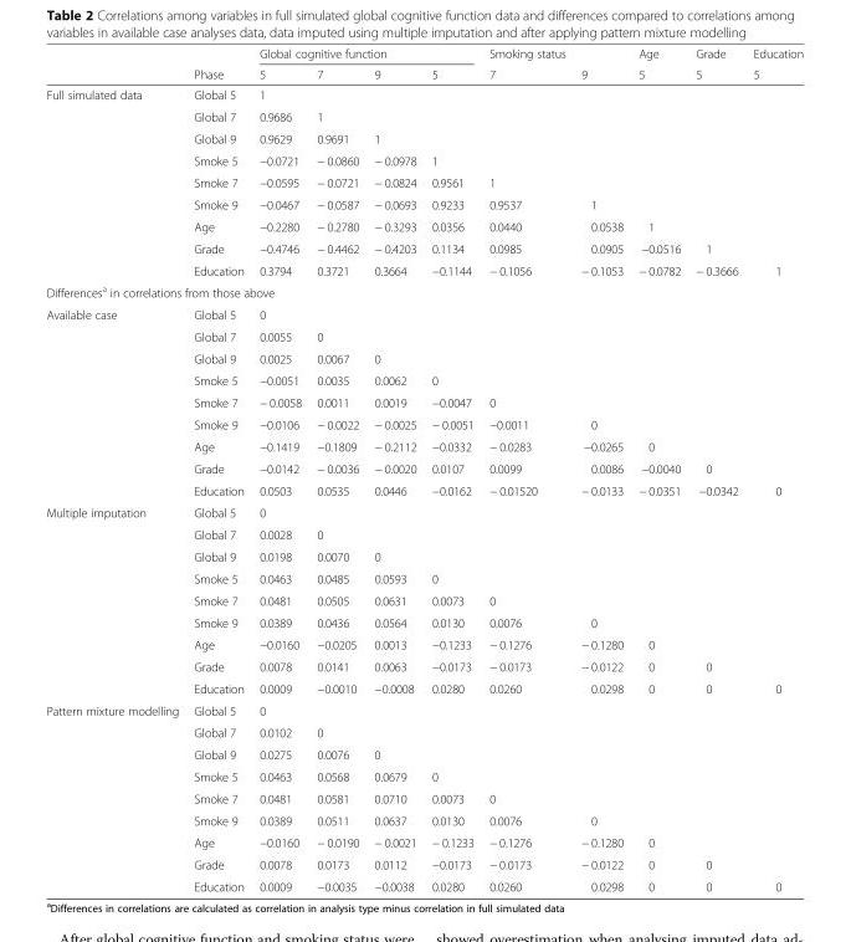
<table><thead><tr><td rowspan="2"></td><td rowspan="2">Phase</td><td colspan="4">Global cognitive function</td><td rowspan="2">Smoking status 7</td><td rowspan="2">9</td><td rowspan="2">Age 5</td><td rowspan="2">Grade 5</td><td rowspan="2">Education 5</td></tr><tr><td>5</td><td>7</td><td>9</td><td>5</td></tr></thead><tbody><tr><td rowspan="9">Full simulated data</td><td>Global 5</td><td>1</td><td></td><td></td><td></td><td></td><td></td><td></td><td></td><td></td></tr><tr><td>Global 7</td><td>0.9686</td><td>1</td><td></td><td></td><td></td><td></td><td></td><td></td><td></td></tr><tr><td>Global 9</td><td>0.9629</td><td>0.9691</td><td>1</td><td></td><td></td><td></td><td></td><td></td><td></td></tr><tr><td>Smoke 5</td><td>−0.0721</td><td>− 0.0860</td><td>− 0.0978</td><td>1</td><td></td><td></td><td></td><td></td><td></td></tr><tr><td>Smoke 7</td><td>−0.0595</td><td>− 0.0721</td><td>− 0.0824</td><td>0.9561</td><td>1</td><td></td><td></td><td></td><td></td></tr><tr><td>Smoke 9</td><td>−0.0467</td><td>− 0.0587</td><td>− 0.0693</td><td>0.9233</td><td>0.9537</td><td>1</td><td></td><td></td><td></td></tr><tr><td>Age</td><td>−0.2280</td><td>− 0.2780</td><td>− 0.3293</td><td>0.0356</td><td>0.0440</td><td>0.0538</td><td>1</td><td></td><td></td></tr><tr><td>Grade</td><td>−0.4746</td><td>− 0.4462</td><td>− 0.4203</td><td>0.1134</td><td>0.0985</td><td>0.0905</td><td>−0.0516</td><td>1</td><td></td></tr><tr><td>Education</td><td>0.3794</td><td>0.3721</td><td>0.3664</td><td>−0.1144</td><td>− 0.1056</td><td>− 0.1053</td><td>− 0.0782</td><td>− 0.3666</td><td>1</td></tr><tr><td colspan="11">Differences<sup>a</sup> in correlations from those above</td></tr><tr><td rowspan="9">Available case</td><td>Global 5</td><td>0</td><td></td><td></td><td></td><td></td><td></td><td></td><td></td><td></td></tr><tr><td>Global 7</td><td>0.0055</td><td>0</td><td></td><td></td><td></td><td></td><td></td><td></td><td></td></tr><tr><td>Global 9</td><td>0.0025</td><td>0.0067</td><td>0</td><td></td><td></td><td></td><td></td><td></td><td></td></tr><tr><td>Smoke 5</td><td>−0.0051</td><td>0.0035</td><td>0.0062</td><td>0</td><td></td><td></td><td></td><td></td><td></td></tr><tr><td>Smoke 7</td><td>− 0.0058</td><td>0.0011</td><td>0.0019</td><td>−0.0047</td><td>0</td><td></td><td></td><td></td><td></td></tr><tr><td>Smoke 9</td><td>−0.0106</td><td>− 0.0022</td><td>− 0.0025</td><td>− 0.0051</td><td>−0.0011</td><td>0</td><td></td><td></td><td></td></tr><tr><td>Age</td><td>−0.1419</td><td>−0.1809</td><td>− 0.2112</td><td>−0.0332</td><td>− 0.0283</td><td>−0.0265</td><td>0</td><td></td><td></td></tr><tr><td>Grade</td><td>−0.0142</td><td>− 0.0036</td><td>− 0.0020</td><td>0.0107</td><td>0.0099</td><td>0.0086</td><td>−0.0040</td><td>0</td><td></td></tr><tr><td>Education</td><td>0.0503</td><td>0.0535</td><td>0.0446</td><td>−0.0162</td><td>− 0.01520</td><td>− 0.0133</td><td>− 0.0351</td><td>−0.0342</td><td>0</td></tr><tr><td rowspan="9">Multiple imputation</td><td>Global 5</td><td>0</td><td></td><td></td><td></td><td></td><td></td><td></td><td></td><td></td></tr><tr><td>Global 7</td><td>0.0028</td><td>0</td><td></td><td></td><td></td><td></td><td></td><td></td><td></td></tr><tr><td>Global 9</td><td>0.0198</td><td>0.0070</td><td>0</td><td></td><td></td><td></td><td></td><td></td><td></td></tr><tr><td>Smoke 5</td><td>0.0463</td><td>0.0485</td><td>0.0593</td><td>0</td><td></td><td></td><td></td><td></td><td></td></tr><tr><td>Smoke 7</td><td>0.0481</td><td>0.0505</td><td>0.0631</td><td>0.0073</td><td>0</td><td></td><td></td><td></td><td></td></tr><tr><td>Smoke 9</td><td>0.0389</td><td>0.0436</td><td>0.0564</td><td>0.0130</td><td>0.0076</td><td>0</td><td></td><td></td><td></td></tr><tr><td>Age</td><td>−0.0160</td><td>−0.0205</td><td>0.0013</td><td>−0.1233</td><td>− 0.1276</td><td>− 0.1280</td><td>0</td><td></td><td></td></tr><tr><td>Grade</td><td>0.0078</td><td>0.0141</td><td>0.0063</td><td>−0.0173</td><td>− 0.0173</td><td>− 0.0122</td><td>0</td><td>0</td><td></td></tr><tr><td>Education</td><td>0.0009</td><td>−0.0010</td><td>−0.0008</td><td>0.0280</td><td>0.0260</td><td>0.0298</td><td>0</td><td>0</td><td>0</td></tr><tr><td rowspan="9">Pattern mixture modelling</td><td>Global 5</td><td>0</td><td></td><td></td><td></td><td></td><td></td><td></td><td></td><td></td></tr><tr><td>Global 7</td><td>0.0102</td><td>0</td><td></td><td></td><td></td><td></td><td></td><td></td><td></td></tr><tr><td>Global 9</td><td>0.0275</td><td>0.0076</td><td>0</td><td></td><td></td><td></td><td></td><td></td><td></td></tr><tr><td>Smoke 5</td><td>0.0463</td><td>0.0568</td><td>0.0679</td><td>0</td><td></td><td></td><td></td><td></td><td></td></tr><tr><td>Smoke 7</td><td>0.0481</td><td>0.0581</td><td>0.0710</td><td>0.0073</td><td>0</td><td></td><td></td><td></td><td></td></tr><tr><td>Smoke 9</td><td>0.0389</td><td>0.0511</td><td>0.0637</td><td>0.0130</td><td>0.0076</td><td>0</td><td></td><td></td><td></td></tr><tr><td>Age</td><td>−0.0160</td><td>− 0.0190</td><td>− 0.0021</td><td>− 0.1233</td><td>− 0.1276</td><td>− 0.1280</td><td>0</td><td></td><td></td></tr><tr><td>Grade</td><td>0.0078</td><td>0.0173</td><td>0.0112</td><td>−0.0173</td><td>− 0.0173</td><td>− 0.0122</td><td>0</td><td>0</td><td></td></tr><tr><td>Education</td><td>0.0009</td><td>−0.0035</td><td>−0.0038</td><td>0.0280</td><td>0.0260</td><td>0.0298</td><td>0</td><td>0</td><td>0</td></tr></tbody></table>